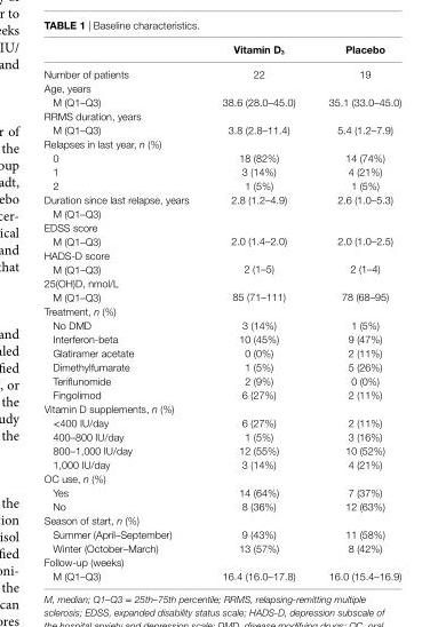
<table><thead><tr><td></td><td>Vitamin D<sub>3</sub></td><td>Placebo</td></tr></thead><tbody><tr><td>Number of patients</td><td>22</td><td>19</td></tr><tr><td>Age, years M (Q1–Q3)</td><td>38.6 (28.0–45.0)</td><td>35.1 (33.0–45.0)</td></tr><tr><td>RRMS duration, years M (Q1–Q3)</td><td>3.8 (2.8–11.4)</td><td>5.4 (1.2–7.9)</td></tr><tr><td>Relapses in last year, n (%) 0 1 2</td><td>18 (82%) 3 (14%) 1 (5%)</td><td>14 (74%) 4 (21%) 1 (5%)</td></tr><tr><td>Duration since last relapse, years M (Q1–Q3)</td><td>2.8 (1.2–4.9)</td><td>2.6 (1.0–5.3)</td></tr><tr><td>EDSS score M (Q1–Q3)</td><td>2.0 (1.4–2.0)</td><td>2.0 (1.0–2.5)</td></tr><tr><td>HADS-D score M (Q1–Q3)</td><td>2 (1–5)</td><td>2 (1–4)</td></tr><tr><td>25(OH)D, nmol/L M (Q1–Q3)</td><td>85 (71–111)</td><td>78 (68–95)</td></tr><tr><td>Treatment, n (%) No DMD Interferon-beta Glatiramer acetate Dimethylfumarate Teriflunomide Fingolimod</td><td>3 (14%) 10 (45%) 0 (0%) 1 (5%) 2 (9%) 6 (27%)</td><td>1 (5%) 9 (47%) 2 (11%) 5 (26%) 0 (0%) 2 (11%)</td></tr><tr><td>Vitamin D supplements, n (%) &lt;400 IU/day 400–800 IU/day 800–1,000 IU/day 1,000 IU/day</td><td>6 (27%) 1 (5%) 12 (55%) 3 (14%)</td><td>2 (11%) 3 (16%) 10 (52%) 4 (21%)</td></tr><tr><td>OC use, n (%) Yes No</td><td>14 (64%) 8 (36%)</td><td>7 (37%) 12 (63%)</td></tr><tr><td>Season of start, n (%) Summer (April–September) Winter (October–March)</td><td>9 (43%) 13 (57%)</td><td>11 (58%) 8 (42%)</td></tr><tr><td>Follow-up (weeks) M (Q1–Q3)</td><td>16.4 (16.0–17.8)</td><td>16.0 (15.4–16.9)</td></tr></tbody></table>